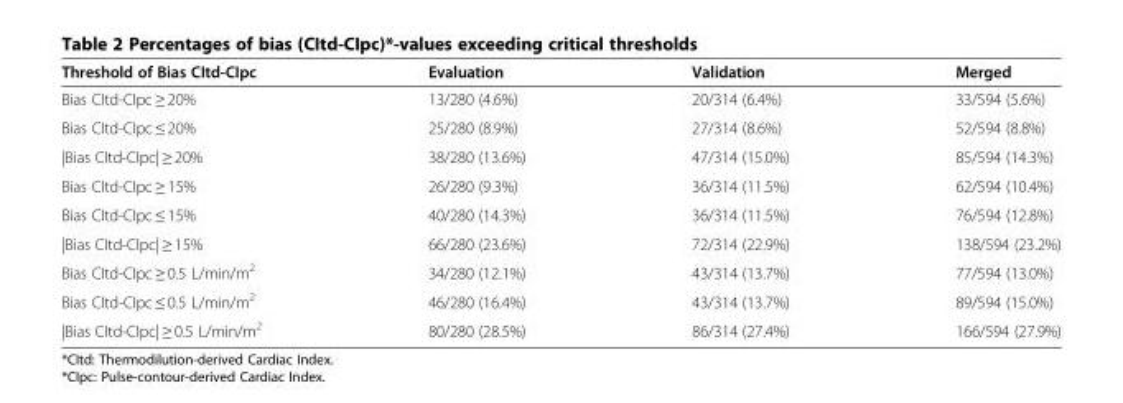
<table><thead><tr><td>Threshold of Bias CItd-CIpc</td><td>Evaluation</td><td>Validation</td><td>Merged</td></tr></thead><tbody><tr><td>Bias CItd-CIpc ≥ 20%</td><td>13/280 (4.6%)</td><td>20/314 (6.4%)</td><td>33/594 (5.6%)</td></tr><tr><td>Bias CItd-CIpc ≤ 20%</td><td>25/280 (8.9%)</td><td>27/314 (8.6%)</td><td>52/594 (8.8%)</td></tr><tr><td>|Bias CItd-CIpc| ≥ 20%</td><td>38/280 (13.6%)</td><td>47/314 (15.0%)</td><td>85/594 (14.3%)</td></tr><tr><td>Bias CItd-CIpc ≥ 15%</td><td>26/280 (9.3%)</td><td>36/314 (11.5%)</td><td>62/594 (10.4%)</td></tr><tr><td>Bias CItd-CIpc ≤ 15%</td><td>40/280 (14.3%)</td><td>36/314 (11.5%)</td><td>76/594 (12.8%)</td></tr><tr><td>|Bias CItd-CIpc| ≥ 15%</td><td>66/280 (23.6%)</td><td>72/314 (22.9%)</td><td>138/594 (23.2%)</td></tr><tr><td>Bias CItd-CIpc ≥ 0.5 L/min/m<sup>2</sup></td><td>34/280 (12.1%)</td><td>43/314 (13.7%)</td><td>77/594 (13.0%)</td></tr><tr><td>Bias CItd-CIpc ≤ 0.5 L/min/m<sup>2</sup></td><td>46/280 (16.4%)</td><td>43/314 (13.7%)</td><td>89/594 (15.0%)</td></tr><tr><td>|Bias CItd-CIpc| ≥ 0.5 L/min/m<sup>2</sup></td><td>80/280 (28.5%)</td><td>86/314 (27.4%)</td><td>166/594 (27.9%)</td></tr></tbody></table>